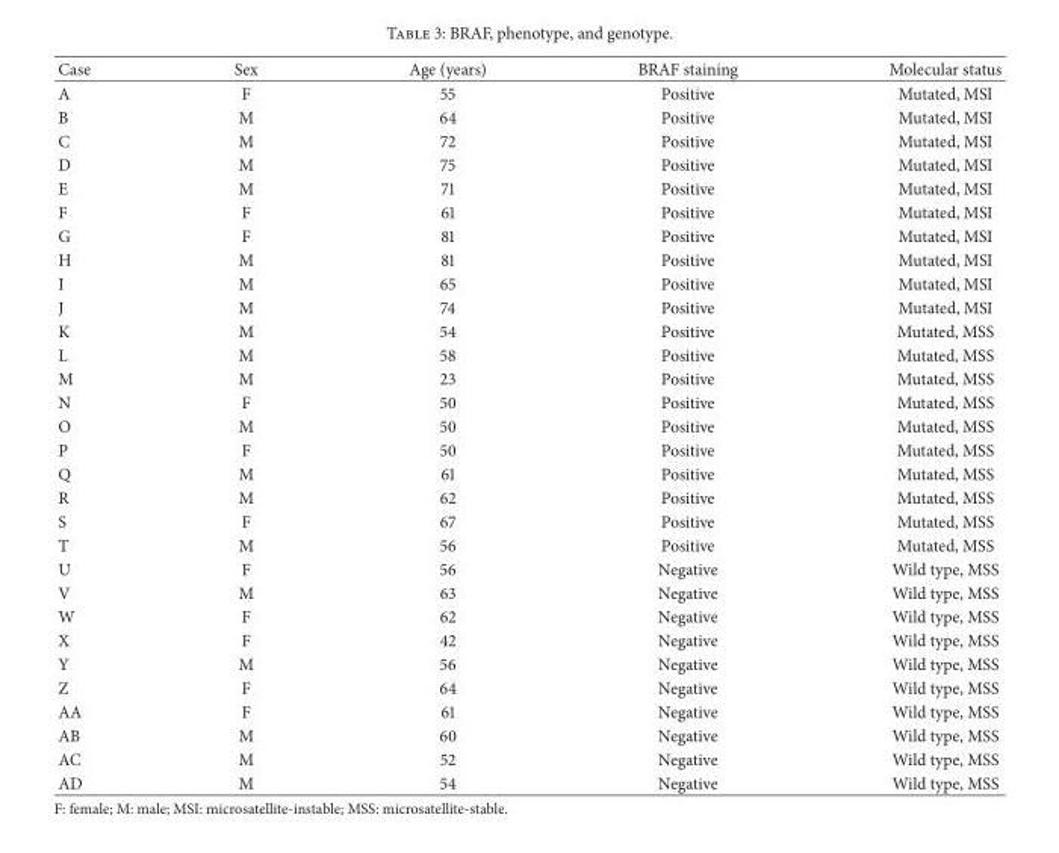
<table><thead><tr><td>Case</td><td>Sex</td><td>Age (years)</td><td>BRAF staining</td><td>Molecular status</td></tr></thead><tbody><tr><td>A</td><td>F</td><td>55</td><td>Positive</td><td>Mutated, MSI</td></tr><tr><td>B</td><td>M</td><td>64</td><td>Positive</td><td>Mutated, MSI</td></tr><tr><td>C</td><td>M</td><td>72</td><td>Positive</td><td>Mutated, MSI</td></tr><tr><td>D</td><td>M</td><td>75</td><td>Positive</td><td>Mutated, MSI</td></tr><tr><td>E</td><td>M</td><td>71</td><td>Positive</td><td>Mutated, MSI</td></tr><tr><td>F</td><td>F</td><td>61</td><td>Positive</td><td>Mutated, MSI</td></tr><tr><td>G</td><td>F</td><td>81</td><td>Positive</td><td>Mutated, MSI</td></tr><tr><td>H</td><td>M</td><td>81</td><td>Positive</td><td>Mutated, MSI</td></tr><tr><td>I</td><td>M</td><td>65</td><td>Positive</td><td>Mutated, MSI</td></tr><tr><td>J</td><td>M</td><td>74</td><td>Positive</td><td>Mutated, MSI</td></tr><tr><td>K</td><td>M</td><td>54</td><td>Positive</td><td>Mutated, MSS</td></tr><tr><td>L</td><td>M</td><td>58</td><td>Positive</td><td>Mutated, MSS</td></tr><tr><td>M</td><td>M</td><td>23</td><td>Positive</td><td>Mutated, MSS</td></tr><tr><td>N</td><td>F</td><td>50</td><td>Positive</td><td>Mutated, MSS</td></tr><tr><td>O</td><td>M</td><td>50</td><td>Positive</td><td>Mutated, MSS</td></tr><tr><td>P</td><td>F</td><td>50</td><td>Positive</td><td>Mutated, MSS</td></tr><tr><td>Q</td><td>M</td><td>61</td><td>Positive</td><td>Mutated, MSS</td></tr><tr><td>R</td><td>M</td><td>62</td><td>Positive</td><td>Mutated, MSS</td></tr><tr><td>S</td><td>F</td><td>67</td><td>Positive</td><td>Mutated, MSS</td></tr><tr><td>T</td><td>M</td><td>56</td><td>Positive</td><td>Mutated, MSS</td></tr><tr><td>U</td><td>F</td><td>56</td><td>Negative</td><td>Wild type, MSS</td></tr><tr><td>V</td><td>M</td><td>63</td><td>Negative</td><td>Wild type, MSS</td></tr><tr><td>W</td><td>F</td><td>62</td><td>Negative</td><td>Wild type, MSS</td></tr><tr><td>X</td><td>F</td><td>42</td><td>Negative</td><td>Wild type, MSS</td></tr><tr><td>Y</td><td>M</td><td>56</td><td>Negative</td><td>Wild type, MSS</td></tr><tr><td>Z</td><td>F</td><td>64</td><td>Negative</td><td>Wild type, MSS</td></tr><tr><td>AA</td><td>F</td><td>61</td><td>Negative</td><td>Wild type, MSS</td></tr><tr><td>AB</td><td>M</td><td>60</td><td>Negative</td><td>Wild type, MSS</td></tr><tr><td>AC</td><td>M</td><td>52</td><td>Negative</td><td>Wild type, MSS</td></tr><tr><td>AD</td><td>M</td><td>54</td><td>Negative</td><td>Wild type, MSS</td></tr></tbody></table>